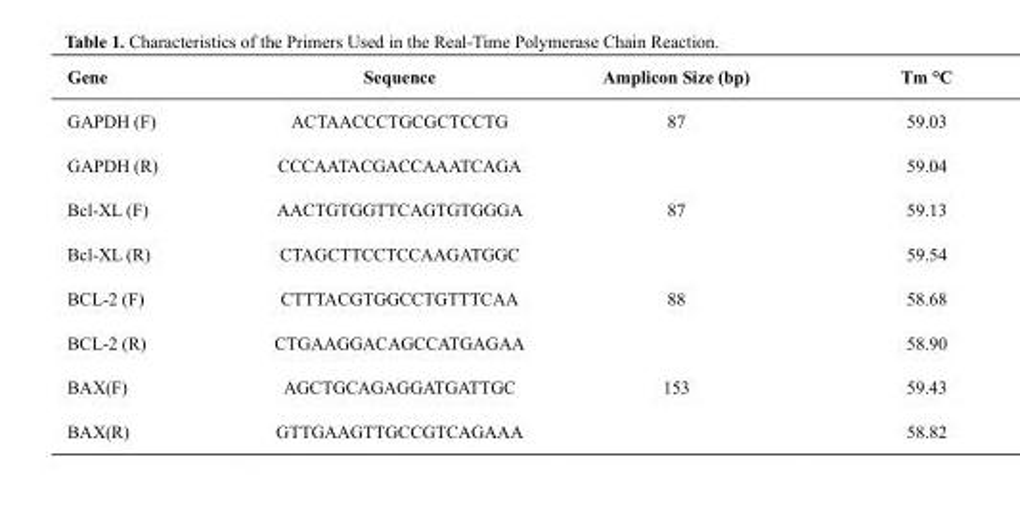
<table><thead><tr><td>Gene</td><td>Sequence</td><td>Amplicon Size (bp)</td><td>Tm °C</td></tr></thead><tbody><tr><td>GAPDH (F)</td><td>ACTAACCCTGCGCTCCTG</td><td>87</td><td>59.03</td></tr><tr><td>GAPDH (R)</td><td>CCCAATACGACCAAATCAGA</td><td></td><td>59.04</td></tr><tr><td>Bcl-XL (F)</td><td>AACTGTGGTTCAGTGTGGGA</td><td>87</td><td>59.13</td></tr><tr><td>Bcl-XL (R)</td><td>CTAGCTTCCTCCAAGATGGC</td><td></td><td>59.54</td></tr><tr><td>BCL-2 (F)</td><td>CTTTACGTGGCCTGTTTCAA</td><td>88</td><td>58.68</td></tr><tr><td>BCL-2 (R)</td><td>CTGAAGGACAGCCATGAGAA</td><td></td><td>58.90</td></tr><tr><td>BAX(F)</td><td>AGCTGCAGAGGATGATTGC</td><td>153</td><td>59.43</td></tr><tr><td>BAX(R)</td><td>GTTGAAGTTGCCGTCAGAAA</td><td></td><td>58.82</td></tr></tbody></table>